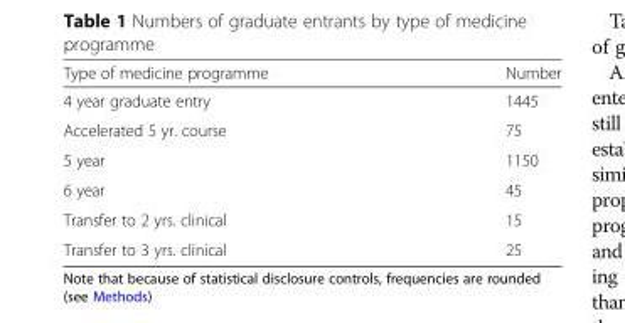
<table><thead><tr><td>Type of medicine programme</td><td>Number</td></tr></thead><tbody><tr><td>4 year graduate entry</td><td>1445</td></tr><tr><td>Accelerated 5 yr. course</td><td>75</td></tr><tr><td>5 year</td><td>1150</td></tr><tr><td>6 year</td><td>45</td></tr><tr><td>Transfer to 2 yrs. clinical</td><td>15</td></tr><tr><td>Transfer to 3 yrs. clinical</td><td>25</td></tr></tbody></table>